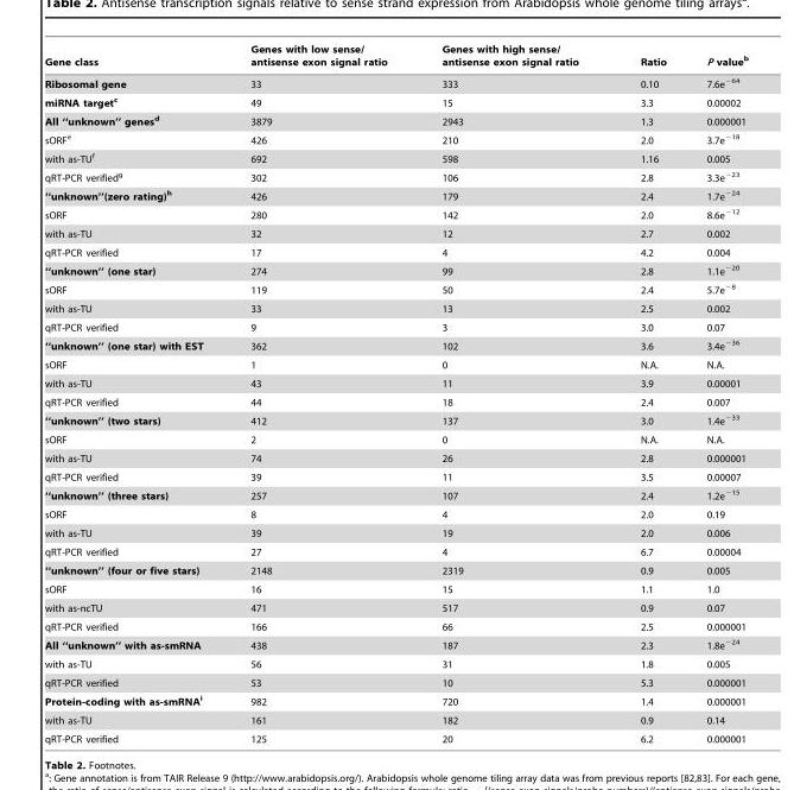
<table><thead><tr><td>Gene class</td><td>Genes with low sense/ antisense exon signal ratio</td><td>Genes with high sense/ antisense exon signal ratio</td><td>Ratio</td><td>P value<sup>b</sup></td></tr></thead><tbody><tr><td>Ribosomal gene</td><td>33</td><td>333</td><td>0.10</td><td>7.6e<sup>−64</sup></td></tr><tr><td>miRNA target<sup>c</sup></td><td>49</td><td>15</td><td>3.3</td><td>0.00002</td></tr><tr><td>All ‘‘unknown’’ genesd</td><td>3879</td><td>2943</td><td>1.3</td><td>0.000001</td></tr><tr><td>sORF<sup>e</sup></td><td>426</td><td>210</td><td>2.0</td><td>3.7e<sup>−18</sup></td></tr><tr><td>with as-TU<sup>f</sup></td><td>692</td><td>598</td><td>1.16</td><td>0.005</td></tr><tr><td>qRT-PCR verified<sup>g</sup></td><td>302</td><td>106</td><td>2.8</td><td>3.3e<sup>−23</sup></td></tr><tr><td>‘‘unknown’’(zero rating)h</td><td>426</td><td>179</td><td>2.4</td><td>1.7e<sup>−24</sup></td></tr><tr><td>sORF</td><td>280</td><td>142</td><td>2.0</td><td>8.6e<sup>−12</sup></td></tr><tr><td>with as-TU</td><td>32</td><td>12</td><td>2.7</td><td>0.002</td></tr><tr><td>qRT-PCR verified</td><td>17</td><td>4</td><td>4.2</td><td>0.004</td></tr><tr><td>‘‘unknown’’ (one star)</td><td>274</td><td>99</td><td>2.8</td><td>1.1e<sup>−20</sup></td></tr><tr><td>sORF</td><td>119</td><td>50</td><td>2.4</td><td>5.7e<sup>−8</sup></td></tr><tr><td>with as-TU</td><td>33</td><td>13</td><td>2.5</td><td>0.002</td></tr><tr><td>qRT-PCR verified</td><td>9</td><td>3</td><td>3.0</td><td>0.07</td></tr><tr><td>‘‘unknown’’ (one star) with EST</td><td>362</td><td>102</td><td>3.6</td><td>3.4e<sup>−36</sup></td></tr><tr><td>sORF</td><td>1</td><td>0</td><td>N.A.</td><td>N.A.</td></tr><tr><td>with as-TU</td><td>43</td><td>11</td><td>3.9</td><td>0.00001</td></tr><tr><td>qRT-PCR verified</td><td>44</td><td>18</td><td>2.4</td><td>0.007</td></tr><tr><td>‘‘unknown’’ (two stars)</td><td>412</td><td>137</td><td>3.0</td><td>1.4e<sup>−33</sup></td></tr><tr><td>sORF</td><td>2</td><td>0</td><td>N.A.</td><td>N.A.</td></tr><tr><td>with as-TU</td><td>74</td><td>26</td><td>2.8</td><td>0.000001</td></tr><tr><td>qRT-PCR verified</td><td>39</td><td>11</td><td>3.5</td><td>0.00007</td></tr><tr><td>‘‘unknown’’ (three stars)</td><td>257</td><td>107</td><td>2.4</td><td>1.2e<sup>−15</sup></td></tr><tr><td>sORF</td><td>8</td><td>4</td><td>2.0</td><td>0.19</td></tr><tr><td>with as-TU</td><td>39</td><td>19</td><td>2.0</td><td>0.006</td></tr><tr><td>qRT-PCR verified</td><td>27</td><td>4</td><td>6.7</td><td>0.00004</td></tr><tr><td>‘‘unknown’’ (four or five stars)</td><td>2148</td><td>2319</td><td>0.9</td><td>0.005</td></tr><tr><td>sORF</td><td>16</td><td>15</td><td>1.1</td><td>1.0</td></tr><tr><td>with as-ncTU</td><td>471</td><td>517</td><td>0.9</td><td>0.07</td></tr><tr><td>qRT-PCR verified</td><td>166</td><td>66</td><td>2.5</td><td>0.000001</td></tr><tr><td>All ‘‘unknown’’ with as-smRNA</td><td>438</td><td>187</td><td>2.3</td><td>1.8e<sup>−24</sup></td></tr><tr><td>with as-TU</td><td>56</td><td>31</td><td>1.8</td><td>0.005</td></tr><tr><td>qRT-PCR verified</td><td>53</td><td>10</td><td>5.3</td><td>0.000001</td></tr><tr><td>Protein-coding with as-smRNA<sup>i</sup></td><td>982</td><td>720</td><td>1.4</td><td>0.000001</td></tr><tr><td>with as-TU</td><td>161</td><td>182</td><td>0.9</td><td>0.14</td></tr><tr><td>qRT-PCR verified</td><td>125</td><td>20</td><td>6.2</td><td>0.000001</td></tr></tbody></table>